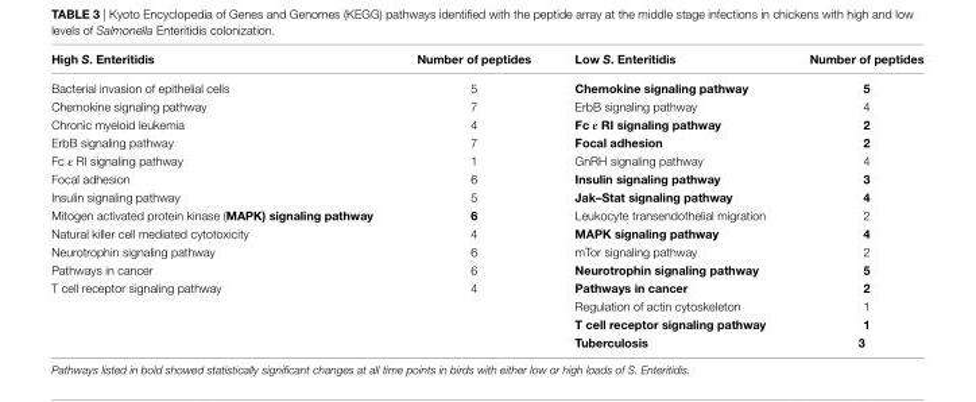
<table><thead><tr><td>high S. enteritidis</td><td>number of peptides</td><td>low S. enteritidis</td><td>number of peptides</td></tr></thead><tbody><tr><td>Bacterial invasion of epithelial cells</td><td>5</td><td>chemokine signaling pathway</td><td>5</td></tr><tr><td>Chemokine signaling pathway</td><td>7</td><td>ErbB signaling pathway</td><td>4</td></tr><tr><td>Chronic myeloid leukemia</td><td>4</td><td>Fc ε ri signaling pathway</td><td>2</td></tr><tr><td>ErbB signaling pathway</td><td>7</td><td>Focal adhesion</td><td>2</td></tr><tr><td>Fc ε RI signaling pathway</td><td>1</td><td>GnRH signaling pathway</td><td>4</td></tr><tr><td>Focal adhesion</td><td>6</td><td>insulin signaling pathway</td><td>3</td></tr><tr><td>Insulin signaling pathway</td><td>5</td><td>Jak–stat signaling pathway</td><td>4</td></tr><tr><td>Mitogen activated protein kinase (MaPK) signaling pathway</td><td>6</td><td>Leukocyte transendothelial migration</td><td>2</td></tr><tr><td>Natural killer cell mediated cytotoxicity</td><td>4</td><td>MaPK signaling pathway</td><td>4</td></tr><tr><td>Neurotrophin signaling pathway</td><td>6</td><td>mTor signaling pathway</td><td>2</td></tr><tr><td>Pathways in cancer</td><td>6</td><td>neurotrophin signaling pathway</td><td>5</td></tr><tr><td rowspan="4">T cell receptor signaling pathway</td><td>4</td><td>Pathways in cancer</td><td>2</td></tr><tr><td></td><td>Regulation of actin cytoskeleton</td><td>1</td></tr><tr><td></td><td>T cell receptor signaling pathway</td><td>1</td></tr><tr><td></td><td>Tuberculosis</td><td>3</td></tr></tbody></table>